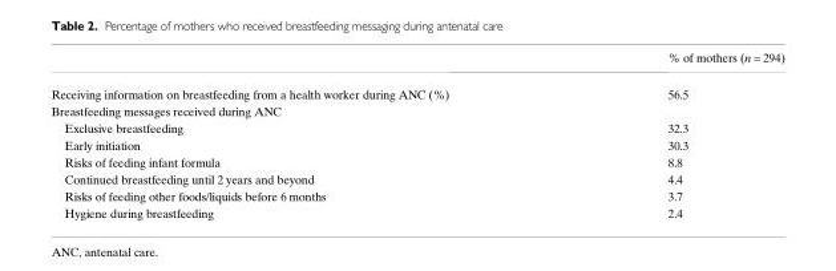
<table><thead><tr><td></td><td>% of mothers (n = 294)</td></tr></thead><tbody><tr><td>Receiving information on breastfeeding from a health worker during ANC (%)</td><td>56.5</td></tr><tr><td colspan="2">Breastfeeding messages received during ANC</td></tr><tr><td>Exclusive breastfeeding</td><td>32.3</td></tr><tr><td>Early initiation</td><td>30.3</td></tr><tr><td>Risks of feeding infant formula</td><td>8.8</td></tr><tr><td>Continued breastfeeding until 2 years and beyond</td><td>4.4</td></tr><tr><td>Risks of feeding other foods/liquids before 6 months</td><td>3.7</td></tr><tr><td>Hygiene during breastfeeding</td><td>2.4</td></tr></tbody></table>